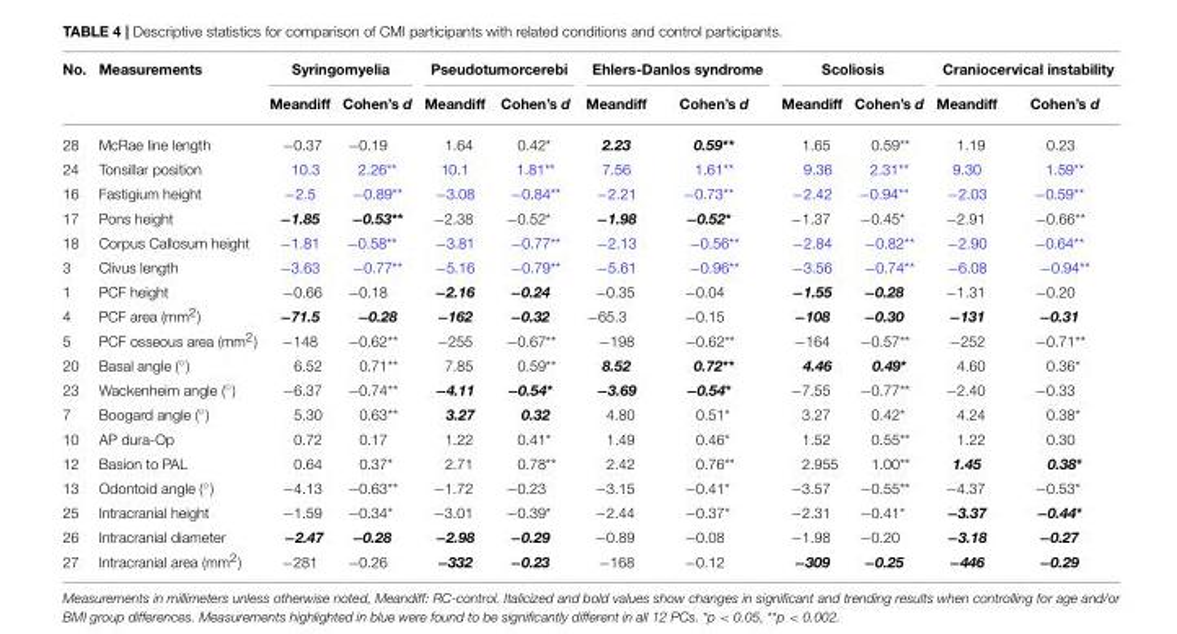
<table><thead><tr><td rowspan="2">No.</td><td rowspan="2">Measurements</td><td colspan="2">Syringomyelia</td><td colspan="2">Pseudotumorcerebi</td><td colspan="2">Ehlers-Danlos syndrome</td><td colspan="2">Scoliosis</td><td colspan="2">Craniocervical instability</td></tr><tr><td>Meandiff</td><td>Cohen’s d</td><td>Meandiff</td><td>Cohen’s d</td><td>Meandiff</td><td>Cohen’s d</td><td>Meandiff</td><td>Cohen’s d</td><td>Meandiff</td><td>Cohen’s d</td></tr></thead><tbody><tr><td>28</td><td>McRae line length</td><td>−0.37</td><td>−0.19</td><td>1.64</td><td>0.42*</td><td>2.23</td><td>0.59**</td><td>1.65</td><td>0.59**</td><td>1.19</td><td>0.23</td></tr><tr><td>24</td><td>Tonsillar position</td><td>10.3</td><td>2.26**</td><td>10.1</td><td>1.81**</td><td>7.56</td><td>1.61**</td><td>9.36</td><td>2.31**</td><td>9.30</td><td>1.59**</td></tr><tr><td>16</td><td>Fastigium height</td><td>−2.5</td><td>−0.89**</td><td>−3.08</td><td>−0.84**</td><td>−2.21</td><td>−0.73**</td><td>−2.42</td><td>−0.94**</td><td>−2.03</td><td>−0.59**</td></tr><tr><td>17</td><td>Pons height</td><td>−1.85</td><td>−0.53**</td><td>−2.38</td><td>−0.52*</td><td>−1.98</td><td>−0.52*</td><td>−1.37</td><td>−0.45*</td><td>−2.91</td><td>−0.66**</td></tr><tr><td>18</td><td>Corpus Callosum height</td><td>−1.81</td><td>−0.58**</td><td>−3.81</td><td>−0.77**</td><td>−2.13</td><td>−0.56**</td><td>−2.84</td><td>−0.82**</td><td>−2.90</td><td>−0.64**</td></tr><tr><td>3</td><td>Clivus length</td><td>−3.63</td><td>−0.77**</td><td>−5.16</td><td>−0.79**</td><td>−5.61</td><td>−0.96**</td><td>−3.56</td><td>−0.74**</td><td>−6.08</td><td>−0.94**</td></tr><tr><td>1</td><td>PCF height</td><td>−0.66</td><td>−0.18</td><td>−2.16</td><td>−0.24</td><td>−0.35</td><td>−0.04</td><td>−1.55</td><td>−0.28</td><td>−1.31</td><td>−0.20</td></tr><tr><td>4</td><td>PCF area (mm<sup>2</sup>)</td><td>−71.5</td><td>−0.28</td><td>−162</td><td>−0.32</td><td>−65.3</td><td>−0.15</td><td>−108</td><td>−0.30</td><td>−131</td><td>−0.31</td></tr><tr><td>5</td><td>PCF osseous area (mm<sup>2</sup>)</td><td>−148</td><td>−0.62**</td><td>−255</td><td>−0.67**</td><td>−198</td><td>−0.62**</td><td>−164</td><td>−0.57**</td><td>−252</td><td>−0.71**</td></tr><tr><td>20</td><td>Basal angle (◦)</td><td>6.52</td><td>0.71**</td><td>7.85</td><td>0.59**</td><td>8.52</td><td>0.72**</td><td>4.46</td><td>0.49*</td><td>4.60</td><td>0.36*</td></tr><tr><td>23</td><td>Wackenheim angle (◦)</td><td>−6.37</td><td>−0.74**</td><td>−4.11</td><td>−0.54*</td><td>−3.69</td><td>−0.54*</td><td>−7.55</td><td>−0.77**</td><td>−2.40</td><td>−0.33</td></tr><tr><td>7</td><td>Boogard angle (◦)</td><td>5.30</td><td>0.63**</td><td>3.27</td><td>0.32</td><td>4.80</td><td>0.51*</td><td>3.27</td><td>0.42*</td><td>4.24</td><td>0.38*</td></tr><tr><td>10</td><td>AP dura-Op</td><td>0.72</td><td>0.17</td><td>1.22</td><td>0.41*</td><td>1.49</td><td>0.46*</td><td>1.52</td><td>0.55**</td><td>1.22</td><td>0.30</td></tr><tr><td>12</td><td>Basion to PAL</td><td>0.64</td><td>0.37*</td><td>2.71</td><td>0.78**</td><td>2.42</td><td>0.76**</td><td>2.955</td><td>1.00**</td><td>1.45</td><td>0.38*</td></tr><tr><td>13</td><td>Odontoid angle (◦)</td><td>−4.13</td><td>−0.63**</td><td>−1.72</td><td>−0.23</td><td>−3.15</td><td>−0.41*</td><td>−3.57</td><td>−0.55**</td><td>−4.37</td><td>−0.53*</td></tr><tr><td>25</td><td>Intracranial height</td><td>−1.59</td><td>−0.34*</td><td>−3.01</td><td>−0.39*</td><td>−2.44</td><td>−0.37*</td><td>−2.31</td><td>−0.41*</td><td>−3.37</td><td>−0.44*</td></tr><tr><td>26</td><td>Intracranial diameter</td><td>−2.47</td><td>−0.28</td><td>−2.98</td><td>−0.29</td><td>−0.89</td><td>−0.08</td><td>−1.98</td><td>−0.20</td><td>−3.18</td><td>−0.27</td></tr><tr><td>27</td><td>Intracranial area (mm<sup>2</sup>)</td><td>−281</td><td>−0.26</td><td>−332</td><td>−0.23</td><td>−168</td><td>−0.12</td><td>−309</td><td>−0.25</td><td>−446</td><td>−0.29</td></tr></tbody></table>